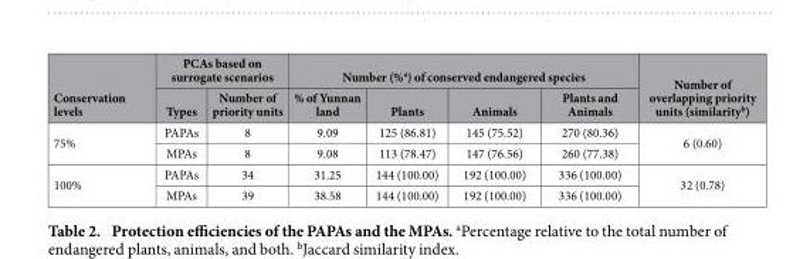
<table><thead><tr><td rowspan="2">Conservation levels</td><td colspan="2">PCAs based on surrogate scenarios</td><td colspan="4">Number (%<sup>a</sup>) of conserved endangered species</td><td rowspan="2">Number of overlapping priority units (similarity<sup>b</sup>)</td></tr><tr><td>Types</td><td>Number of priority units</td><td>% of Yunnan land</td><td>Plants</td><td>Animals</td><td>Plants and Animals</td></tr></thead><tbody><tr><td rowspan="2">75%</td><td>PAPAs</td><td>8</td><td>9.09</td><td>125 (86.81)</td><td>145 (75.52)</td><td>270 (80.36)</td><td rowspan="2">6 (0.60)</td></tr><tr><td>MPAs</td><td>8</td><td>9.08</td><td>113 (78.47)</td><td>147 (76.56)</td><td>260 (77.38)</td></tr><tr><td rowspan="2">100%</td><td>PAPAs</td><td>34</td><td>31.25</td><td>144 (100.00)</td><td>192 (100.00)</td><td>336 (100.00)</td><td rowspan="2">32 (0.78)</td></tr><tr><td>MPAs</td><td>39</td><td>38.58</td><td>144 (100.00)</td><td>192 (100.00)</td><td>336 (100.00)</td></tr></tbody></table>